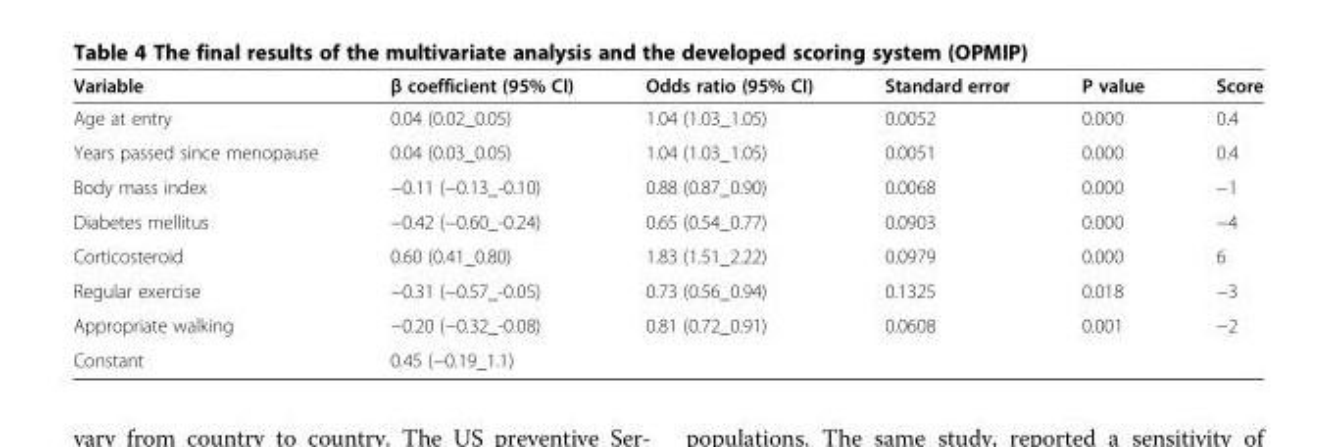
<table><thead><tr><td>Variable</td><td>β coefficient (95% CI)</td><td>Odds ratio (95% CI)</td><td>Standard error</td><td>P value</td><td>Score</td></tr></thead><tbody><tr><td>Age at entry</td><td>0.04 (0.02_0.05)</td><td>1.04 (1.03_1.05)</td><td>0.0052</td><td>0.000</td><td>0.4</td></tr><tr><td>Years passed since menopause</td><td>0.04 (0.03_0.05)</td><td>1.04 (1.03_1.05)</td><td>0.0051</td><td>0.000</td><td>0.4</td></tr><tr><td>Body mass index</td><td>−0.11 (−0.13_-0.10)</td><td>0.88 (0.87_0.90)</td><td>0.0068</td><td>0.000</td><td>−1</td></tr><tr><td>Diabetes mellitus</td><td>−0.42 (−0.60_-0.24)</td><td>0.65 (0.54_0.77)</td><td>0.0903</td><td>0.000</td><td>−4</td></tr><tr><td>Corticosteroid</td><td>0.60 (0.41_0.80)</td><td>1.83 (1.51_2.22)</td><td>0.0979</td><td>0.000</td><td>6</td></tr><tr><td>Regular exercise</td><td>−0.31 (−0.57_-0.05)</td><td>0.73 (0.56_0.94)</td><td>0.1325</td><td>0.018</td><td>−3</td></tr><tr><td>Appropriate walking</td><td>−0.20 (−0.32_-0.08)</td><td>0.81 (0.72_0.91)</td><td>0.0608</td><td>0.001</td><td>−2</td></tr><tr><td>Constant</td><td>0.45 (−0.19_1.1)</td><td></td><td></td><td></td><td></td></tr></tbody></table>